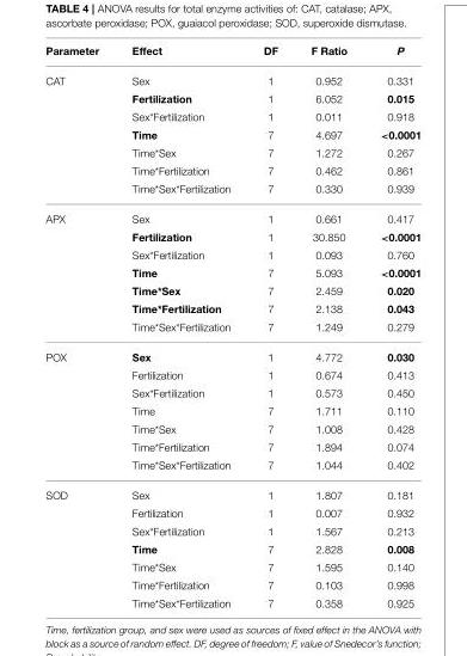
<table><thead><tr><td>Parameter</td><td>Effect</td><td>DF</td><td>F Ratio</td><td>P</td></tr></thead><tbody><tr><td rowspan="7">CAT</td><td>Sex</td><td>1</td><td>0.952</td><td>0.331</td></tr><tr><td>Fertilization</td><td>1</td><td>6.052</td><td>0.015</td></tr><tr><td>Sex*Fertilization</td><td>1</td><td>0.011</td><td>0.918</td></tr><tr><td>Time</td><td>7</td><td>4.697</td><td>&lt;0.0001</td></tr><tr><td>Time*Sex</td><td>7</td><td>1.272</td><td>0.267</td></tr><tr><td>Time*Fertilization</td><td>7</td><td>0.462</td><td>0.861</td></tr><tr><td>Time*Sex*Fertilization</td><td>7</td><td>0.330</td><td>0.939</td></tr><tr><td rowspan="7">APX</td><td>Sex</td><td>1</td><td>0.661</td><td>0.417</td></tr><tr><td>Fertilization</td><td>1</td><td>30.850</td><td>&lt;0.0001</td></tr><tr><td>Sex*Fertilization</td><td>1</td><td>0.093</td><td>0.760</td></tr><tr><td>Time</td><td>7</td><td>5.093</td><td>&lt;0.0001</td></tr><tr><td>Time*Sex</td><td>7</td><td>2.459</td><td>0.020</td></tr><tr><td>Time*Fertilization</td><td>7</td><td>2.138</td><td>0.043</td></tr><tr><td>Time*Sex*Fertilization</td><td>7</td><td>1.249</td><td>0.279</td></tr><tr><td rowspan="7">POX</td><td>Sex</td><td>1</td><td>4.772</td><td>0.030</td></tr><tr><td>Fertilization</td><td>1</td><td>0.674</td><td>0.413</td></tr><tr><td>Sex*Fertilization</td><td>1</td><td>0.573</td><td>0.450</td></tr><tr><td>Time</td><td>7</td><td>1.711</td><td>0.110</td></tr><tr><td>Time*Sex</td><td>7</td><td>1.008</td><td>0.428</td></tr><tr><td>Time*Fertilization</td><td>7</td><td>1.894</td><td>0.074</td></tr><tr><td>Time*Sex*Fertilization</td><td>7</td><td>1.044</td><td>0.402</td></tr><tr><td rowspan="7">SOD</td><td>Sex</td><td>1</td><td>1.807</td><td>0.181</td></tr><tr><td>Fertilization</td><td>1</td><td>0.007</td><td>0.932</td></tr><tr><td>Sex*Fertilization</td><td>1</td><td>1.567</td><td>0.213</td></tr><tr><td>Time</td><td>7</td><td>2.828</td><td>0.008</td></tr><tr><td>Time*Sex</td><td>7</td><td>1.595</td><td>0.140</td></tr><tr><td>Time*Fertilization</td><td>7</td><td>0.103</td><td>0.998</td></tr><tr><td>Time*Sex*Fertilization</td><td>7</td><td>0.358</td><td>0.925</td></tr></tbody></table>